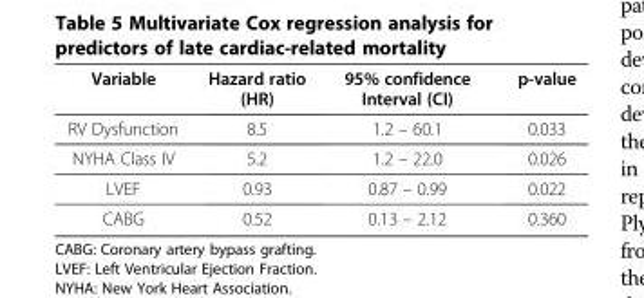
<table><thead><tr><td>Variable</td><td>Hazard ratio (HR)</td><td>95% confidence Interval (CI)</td><td>p-value</td></tr></thead><tbody><tr><td>RV Dysfunction</td><td>8.5</td><td>1.2 – 60.1</td><td>0.033</td></tr><tr><td>NYHA Class IV</td><td>5.2</td><td>1.2 – 22.0</td><td>0.026</td></tr><tr><td>LVEF</td><td>0.93</td><td>0.87 – 0.99</td><td>0.022</td></tr><tr><td>CABG</td><td>0.52</td><td>0.13 – 2.12</td><td>0.360</td></tr></tbody></table>